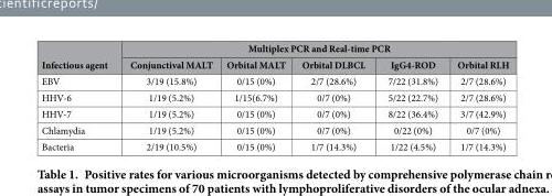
<table><thead><tr><td rowspan="2">Infectious agent</td><td colspan="5">Multiplex PCR and Real-time PCR</td></tr><tr><td>Conjunctival MALT</td><td>Orbital MALT</td><td>Orbital DLBCL</td><td>IgG4-ROD</td><td>Orbital RLH</td></tr></thead><tbody><tr><td>EBV</td><td>3/19 (15.8%)</td><td>0/15 (0%)</td><td>2/7 (28.6%)</td><td>7/22 (31.8%)</td><td>2/7 (28.6%)</td></tr><tr><td>HHV-6</td><td>1/19 (5.2%)</td><td>1/15(6.7%)</td><td>0/7 (0%)</td><td>5/22 (22.7%)</td><td>2/7 (28.6%)</td></tr><tr><td>HHV-7</td><td>1/19 (5.2%)</td><td>0/15 (0%)</td><td>0/7 (0%)</td><td>8/22 (36.4%)</td><td>3/7 (42.9%)</td></tr><tr><td>Chlamydia</td><td>1/19 (5.2%)</td><td>0/15 (0%)</td><td>0/7 (0%)</td><td>0/22 (0%)</td><td>0/7 (0%)</td></tr><tr><td>Bacteria</td><td>2/19 (10.5%)</td><td>0/15 (0%)</td><td>1/7 (14.3%)</td><td>1/22 (4.5%)</td><td>1/7 (14.3%)</td></tr></tbody></table>